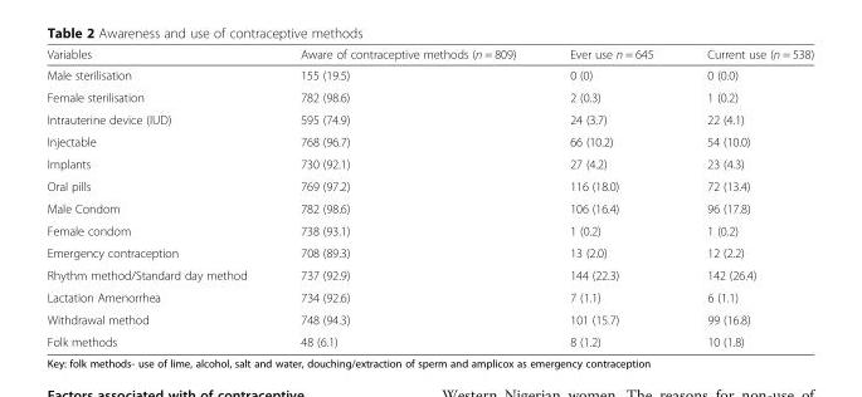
<table><thead><tr><td>Variables</td><td>Aware of contraceptive methods (n = 809)</td><td>Ever use n = 645</td><td>Current use (n = 538)</td></tr></thead><tbody><tr><td>Male sterilisation</td><td>155 (19.5)</td><td>0 (0)</td><td>0 (0.0)</td></tr><tr><td>Female sterilisation</td><td>782 (98.6)</td><td>2 (0.3)</td><td>1 (0.2)</td></tr><tr><td>Intrauterine device (IUD)</td><td>595 (74.9)</td><td>24 (3.7)</td><td>22 (4.1)</td></tr><tr><td>Injectable</td><td>768 (96.7)</td><td>66 (10.2)</td><td>54 (10.0)</td></tr><tr><td>Implants</td><td>730 (92.1)</td><td>27 (4.2)</td><td>23 (4.3)</td></tr><tr><td>Oral pills</td><td>769 (97.2)</td><td>116 (18.0)</td><td>72 (13.4)</td></tr><tr><td>Male Condom</td><td>782 (98.6)</td><td>106 (16.4)</td><td>96 (17.8)</td></tr><tr><td>Female condom</td><td>738 (93.1)</td><td>1 (0.2)</td><td>1 (0.2)</td></tr><tr><td>Emergency contraception</td><td>708 (89.3)</td><td>13 (2.0)</td><td>12 (2.2)</td></tr><tr><td>Rhythm method/Standard day method</td><td>737 (92.9)</td><td>144 (22.3)</td><td>142 (26.4)</td></tr><tr><td>Lactation Amenorrhea</td><td>734 (92.6)</td><td>7 (1.1)</td><td>6 (1.1)</td></tr><tr><td>Withdrawal method</td><td>748 (94.3)</td><td>101 (15.7)</td><td>99 (16.8)</td></tr><tr><td>Folk methods</td><td>48 (6.1)</td><td>8 (1.2)</td><td>10 (1.8)</td></tr></tbody></table>